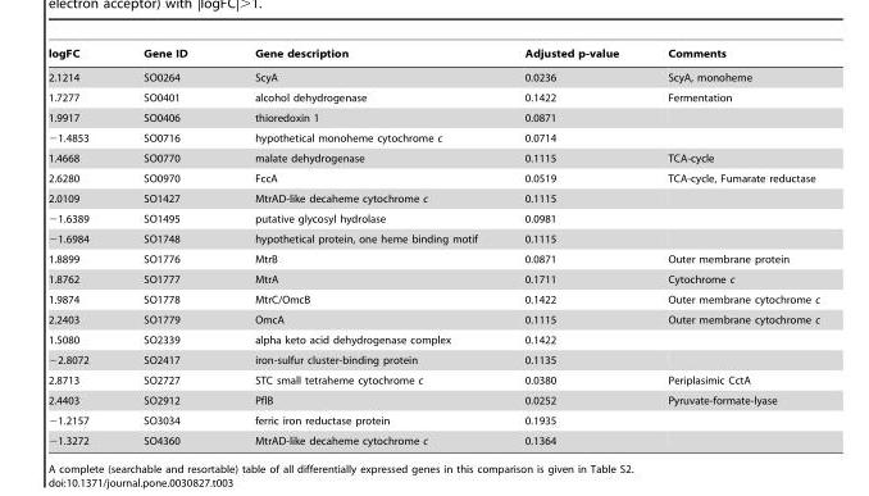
<table><thead><tr><td>logFC</td><td>Gene ID</td><td>Gene description</td><td>Adjusted p-value</td><td>Comments</td></tr></thead><tbody><tr><td>2.1214</td><td>SO0264</td><td>ScyA</td><td>0.0236</td><td>ScyA, monoheme</td></tr><tr><td>1.7277</td><td>SO0401</td><td>alcohol dehydrogenase</td><td>0.1422</td><td>Fermentation</td></tr><tr><td>1.9917</td><td>SO0406</td><td>thioredoxin 1</td><td>0.0871</td><td></td></tr><tr><td>−1.4853</td><td>SO0716</td><td>hypothetical monoheme cytochrome c</td><td>0.0714</td><td></td></tr><tr><td>1.4668</td><td>SO0770</td><td>malate dehydrogenase</td><td>0.1115</td><td>TCA-cycle</td></tr><tr><td>2.6280</td><td>SO0970</td><td>FccA</td><td>0.0519</td><td>TCA-cycle, Fumarate reductase</td></tr><tr><td>2.0109</td><td>SO1427</td><td>MtrAD-like decaheme cytochrome c</td><td>0.1115</td><td></td></tr><tr><td>−1.6389</td><td>SO1495</td><td>putative glycosyl hydrolase</td><td>0.0981</td><td></td></tr><tr><td>−1.6984</td><td>SO1748</td><td>hypothetical protein, one heme binding motif</td><td>0.1115</td><td></td></tr><tr><td>1.8899</td><td>SO1776</td><td>MtrB</td><td>0.0871</td><td>Outer membrane protein</td></tr><tr><td>1.8762</td><td>SO1777</td><td>MtrA</td><td>0.1711</td><td>Cytochrome c</td></tr><tr><td>1.9874</td><td>SO1778</td><td>MtrC/OmcB</td><td>0.1422</td><td>Outer membrane cytochrome c</td></tr><tr><td>2.2403</td><td>SO1779</td><td>OmcA</td><td>0.1115</td><td>Outer membrane cytochrome c</td></tr><tr><td>1.5080</td><td>SO2339</td><td>alpha keto acid dehydrogenase complex</td><td>0.1422</td><td></td></tr><tr><td>−2.8072</td><td>SO2417</td><td>iron-sulfur cluster-binding protein</td><td>0.1135</td><td></td></tr><tr><td>2.8713</td><td>SO2727</td><td>STC small tetraheme cytochrome c</td><td>0.0380</td><td>Periplasimic CctA</td></tr><tr><td>2.4403</td><td>SO2912</td><td>PflB</td><td>0.0252</td><td>Pyruvate-formate-lyase</td></tr><tr><td>−1.2157</td><td>SO3034</td><td>ferric iron reductase protein</td><td>0.1935</td><td></td></tr><tr><td>−1.3272</td><td>SO4360</td><td>MtrAD-like decaheme cytochrome c</td><td>0.1364</td><td></td></tr></tbody></table>